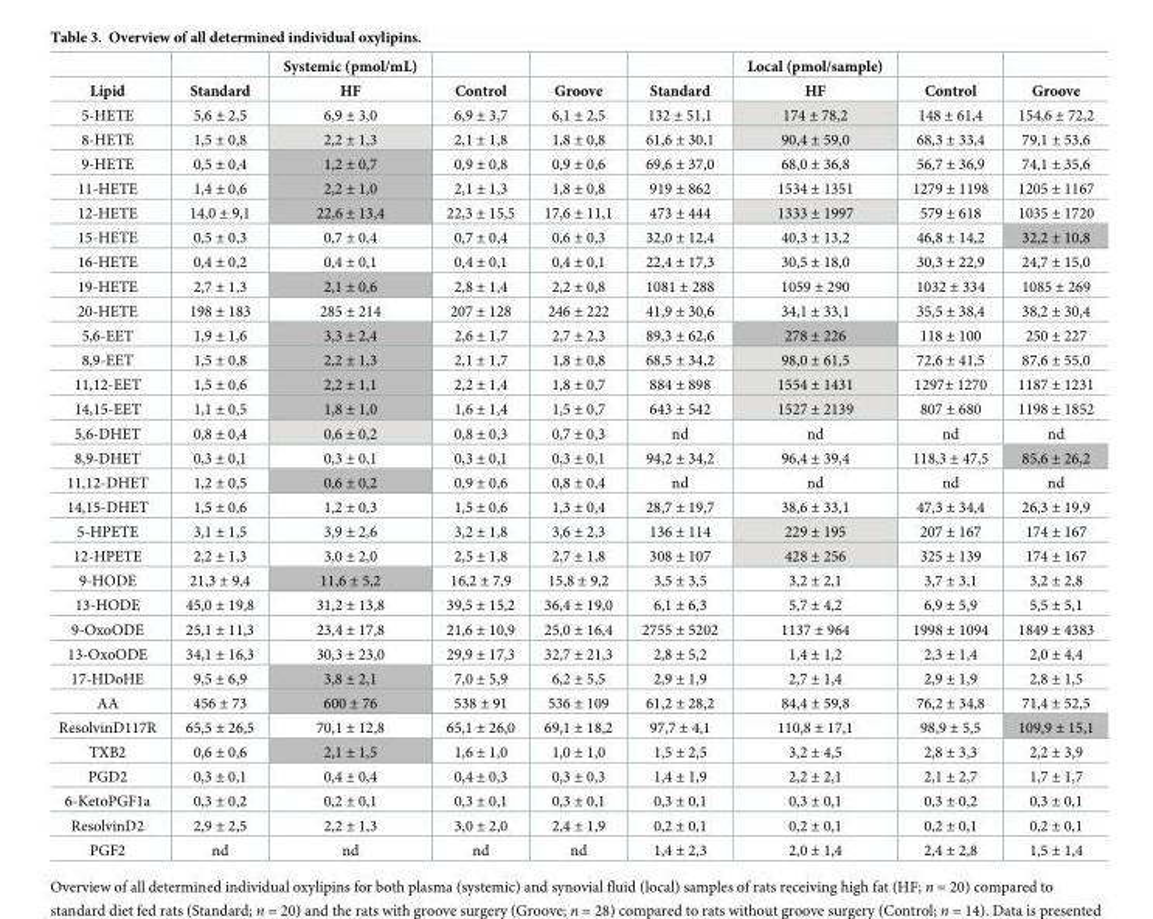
<table><thead><tr><td rowspan="2">Lipid</td><td rowspan="2">Standard</td><td rowspan="2">Systemic (pmol/mL) HF</td><td rowspan="2">Control</td><td rowspan="2">Groove</td><td rowspan="2">Standard</td><td rowspan="2">Local (pmol/sample) HF</td><td rowspan="2">Control</td><td rowspan="2">Groove</td></tr><tr></tr></thead><tbody><tr><td>5-HETE</td><td>5,6 ± 2,5</td><td>6,9 ± 3,0</td><td>6,9 ± 3,7</td><td>6,1 ± 2,5</td><td>132 ± 51,1</td><td>174 ± 78,2</td><td>148 ± 61,4</td><td>154,6 ± 72,2</td></tr><tr><td>8-HETE</td><td>1,5 ± 0,8</td><td>2,2 ± 1,3</td><td>2,1 ± 1,8</td><td>1,8 ± 0,8</td><td>61,6 ± 30,1</td><td>90,4 ± 59,0</td><td>68,3 ± 33,4</td><td>79,1 ± 53,6</td></tr><tr><td>9-HETE</td><td>0,5 ± 0,4</td><td>1,2 ± 0,7</td><td>0,9 ± 0,8</td><td>0,9 ± 0,6</td><td>69,6 ± 37,0</td><td>68,0 ± 36,8</td><td>56,7 ± 36,9</td><td>74,1 ± 35,6</td></tr><tr><td>11-HETE</td><td>1,4 ± 0,6</td><td>2,2 ± 1,0</td><td>2,1 ± 1,3</td><td>1,8 ± 0,8</td><td>919 ± 862</td><td>1534 ± 1351</td><td>1279 ± 1198</td><td>1205 ± 1167</td></tr><tr><td>12-HETE</td><td>14,0 ± 9,1</td><td>22,6 ± 13,4</td><td>22,3 ± 15,5</td><td>17,6 ± 11,1</td><td>473 ± 444</td><td>1333 ± 1997</td><td>579 ± 618</td><td>1035 ± 1720</td></tr><tr><td>15-HETE</td><td>0,5 ± 0,3</td><td>0,7 ± 0,4</td><td>0,7 ± 0,4</td><td>0,6 ± 0,3</td><td>32,0 ± 12,4</td><td>40,3 ± 13,2</td><td>46,8 ± 14,2</td><td>32,2 ± 10,8</td></tr><tr><td>16-HETE</td><td>0,4 ± 0,2</td><td>0,4 ± 0,1</td><td>0,4 ± 0,1</td><td>0,4 ± 0,1</td><td>22,4 ± 17,3</td><td>30,5 ± 18,0</td><td>30,3 ± 22,9</td><td>24,7 ± 15,0</td></tr><tr><td>19-HETE</td><td>2,7 ± 1,3</td><td>2,1 ± 0,6</td><td>2,8 ± 1,4</td><td>2,2 ± 0,8</td><td>1081 ± 288</td><td>1059 ± 290</td><td>1032 ± 334</td><td>1085 ± 269</td></tr><tr><td>20-HETE</td><td>198 ± 183</td><td>285 ± 214</td><td>207 ± 128</td><td>246 ± 222</td><td>41,9 ± 30,6</td><td>34,1 ± 33,1</td><td>35,5 ± 38,4</td><td>38,2 ± 30,4</td></tr><tr><td>5,6-EET</td><td>1,9 ± 1,6</td><td>3,3 ± 2,4</td><td>2,6 ± 1,7</td><td>2,7 ± 2,3</td><td>89,3 ± 62,6</td><td>278 ± 226</td><td>118 ± 100</td><td>250 ± 227</td></tr><tr><td>8,9-EET</td><td>1,5 ± 0,8</td><td>2,2 ± 1,3</td><td>2,1 ± 1,7</td><td>1,8 ± 0,8</td><td>68,5 ± 34,2</td><td>98,0 ± 61,5</td><td>72,6 ± 41,5</td><td>87,6 ± 55,0</td></tr><tr><td>11,12-EET</td><td>1,5 ± 0,6</td><td>2,2 ± 1,1</td><td>2,2 ± 1,4</td><td>1,8 ± 0,7</td><td>884 ± 898</td><td>1554 ± 1431</td><td>1297± 1270</td><td>1187 ± 1231</td></tr><tr><td>14,15-EET</td><td>1,1 ± 0,5</td><td>1,8 ± 1,0</td><td>1,6 ± 1,4</td><td>1,5 ± 0,7</td><td>643 ± 542</td><td>1527 ± 2139</td><td>807 ± 680</td><td>1198 ± 1852</td></tr><tr><td>5,6-DHET</td><td>0,8 ± 0,4</td><td>0,6 ± 0,2</td><td>0,8 ± 0,3</td><td>0,7 ± 0,3</td><td>nd</td><td>nd</td><td>nd</td><td>nd</td></tr><tr><td>8,9-DHET</td><td>0,3 ± 0,1</td><td>0,3 ± 0,1</td><td>0,3 ± 0,1</td><td>0,3 ± 0,1</td><td>94,2 ± 34,2</td><td>96,4 ± 39,4</td><td>118,3 ± 47,5</td><td>85,6 ± 26,2</td></tr><tr><td>11,12-DHET</td><td>1,2 ± 0,5</td><td>0,6 ± 0,2</td><td>0,9 ± 0,6</td><td>0,8 ± 0,4</td><td>nd</td><td>nd</td><td>nd</td><td>nd</td></tr><tr><td>14,15-DHET</td><td>1,5 ± 0,6</td><td>1,2 ± 0,3</td><td>1,5 ± 0,6</td><td>1,3 ± 0,4</td><td>28,7 ± 19,7</td><td>38,6 ± 33,1</td><td>47,3 ± 34,4</td><td>26,3 ± 19,9</td></tr><tr><td>5-HPETE</td><td>3,1 ± 1,5</td><td>3,9 ± 2,6</td><td>3,2 ± 1,8</td><td>3,6 ± 2,3</td><td>136 ± 114</td><td>229 ± 195</td><td>207 ± 167</td><td>174 ± 167</td></tr><tr><td>12-HPETE</td><td>2,2 ± 1,3</td><td>3,0 ± 2,0</td><td>2,5 ± 1,8</td><td>2,7 ± 1,8</td><td>308 ± 107</td><td>428 ± 256</td><td>325 ± 139</td><td>174 ± 167</td></tr><tr><td>9-HODE</td><td>21,3 ± 9,4</td><td>11,6 ± 5,2</td><td>16,2 ± 7,9</td><td>15,8 ± 9,2</td><td>3,5 ± 3,5</td><td>3,2 ± 2,1</td><td>3,7 ± 3,1</td><td>3,2 ± 2,8</td></tr><tr><td>13-HODE</td><td>45,0 ± 19,8</td><td>31,2 ± 13,8</td><td>39,5 ± 15,2</td><td>36,4 ± 19,0</td><td>6,1 ± 6,3</td><td>5,7 ± 4,2</td><td>6,9 ± 5,9</td><td>5,5 ± 5,1</td></tr><tr><td>9-OxoODE</td><td>25,1 ± 11,3</td><td>23,4 ± 17,8</td><td>21,6 ± 10,9</td><td>25,0 ± 16,4</td><td>2755 ± 5202</td><td>1137 ± 964</td><td>1998 ± 1094</td><td>1849 ± 4383</td></tr><tr><td>13-OxoODE</td><td>34,1 ± 16,3</td><td>30,3 ± 23,0</td><td>29,9 ± 17,3</td><td>32,7 ± 21,3</td><td>2,8 ± 5,2</td><td>1,4 ± 1,2</td><td>2,3 ± 1,4</td><td>2,0 ± 4,4</td></tr><tr><td>17-HDoHE</td><td>9,5 ± 6,9</td><td>3,8 ± 2,1</td><td>7,0 ± 5,9</td><td>6,2 ± 5,5</td><td>2,9 ± 1,9</td><td>2,7 ± 1,4</td><td>2,9 ± 1,9</td><td>2,8 ± 1,5</td></tr><tr><td>AA</td><td>456 ± 73</td><td>600 ± 76</td><td>538 ± 91</td><td>536 ± 109</td><td>61,2 ± 28,2</td><td>84,4 ± 59,8</td><td>76,2 ± 34,8</td><td>71,4 ± 52,5</td></tr><tr><td>ResolvinD117R</td><td>65,5 ± 26,5</td><td>70,1 ± 12,8</td><td>65,1 ± 26,0</td><td>69,1 ± 18,2</td><td>97,7 ± 4,1</td><td>110,8 ± 17,1</td><td>98,9 ± 5,5</td><td>109,9 ± 15,1</td></tr><tr><td>TXB2</td><td>0,6 ± 0,6</td><td>2,1 ± 1,5</td><td>1,6 ± 1,0</td><td>1,0 ± 1,0</td><td>1,5 ± 2,5</td><td>3,2 ± 4,5</td><td>2,8 ± 3,3</td><td>2,2 ± 3,9</td></tr><tr><td>PGD2</td><td>0,3 ± 0,1</td><td>0,4 ± 0,4</td><td>0,4 ± 0,3</td><td>0,3 ± 0,3</td><td>1,4 ± 1,9</td><td>2,2 ± 2,1</td><td>2,1 ± 2,7</td><td>1,7 ± 1,7</td></tr><tr><td>6-KetoPGF1a</td><td>0,3 ± 0,2</td><td>0,2 ± 0,1</td><td>0,3 ± 0,1</td><td>0,3 ± 0,1</td><td>0,3 ± 0,1</td><td>0,3 ± 0,1</td><td>0,3 ± 0,2</td><td>0,3 ± 0,1</td></tr><tr><td>ResolvinD2</td><td>2,9 ± 2,5</td><td>2,2 ± 1,3</td><td>3,0 ± 2,0</td><td>2,4 ± 1,9</td><td>0,2 ± 0,1</td><td>0,2 ± 0,1</td><td>0,2 ± 0,1</td><td>0,2 ± 0,1</td></tr><tr><td>PGF2</td><td>nd</td><td>nd</td><td>nd</td><td>nd</td><td>1,4 ± 2,3</td><td>2,0 ± 1,4</td><td>2,4 ± 2,8</td><td>1,5 ± 1,4</td></tr></tbody></table>